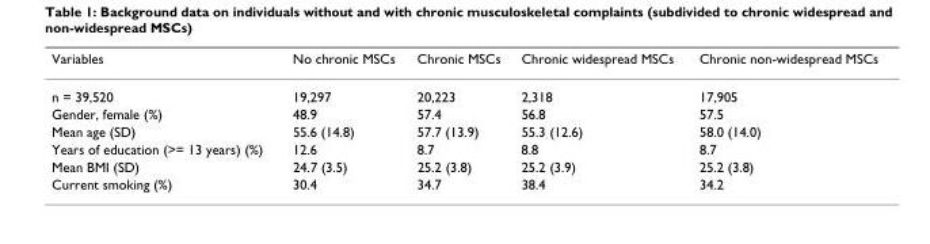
<table><thead><tr><td>Variables</td><td>No chronic MSCs</td><td>Chronic MSCs</td><td>Chronic widespread MSCs</td><td>Chronic non-widespread MSCs</td></tr></thead><tbody><tr><td>n = 39,520</td><td>19,297</td><td>20,223</td><td>2,318</td><td>17,905</td></tr><tr><td>Gender, female (%)</td><td>48.9</td><td>57.4</td><td>56.8</td><td>57.5</td></tr><tr><td>Mean age (SD)</td><td>55.6 (14.8)</td><td>57.7 (13.9)</td><td>55.3 (12.6)</td><td>58.0 (14.0)</td></tr><tr><td>Years of education (&gt;= 13 years) (%)</td><td>12.6</td><td>8.7</td><td>8.8</td><td>8.7</td></tr><tr><td>Mean BMI (SD)</td><td>24.7 (3.5)</td><td>25.2 (3.8)</td><td>25.2 (3.9)</td><td>25.2 (3.8)</td></tr><tr><td>Current smoking (%)</td><td>30.4</td><td>34.7</td><td>38.4</td><td>34.2</td></tr></tbody></table>